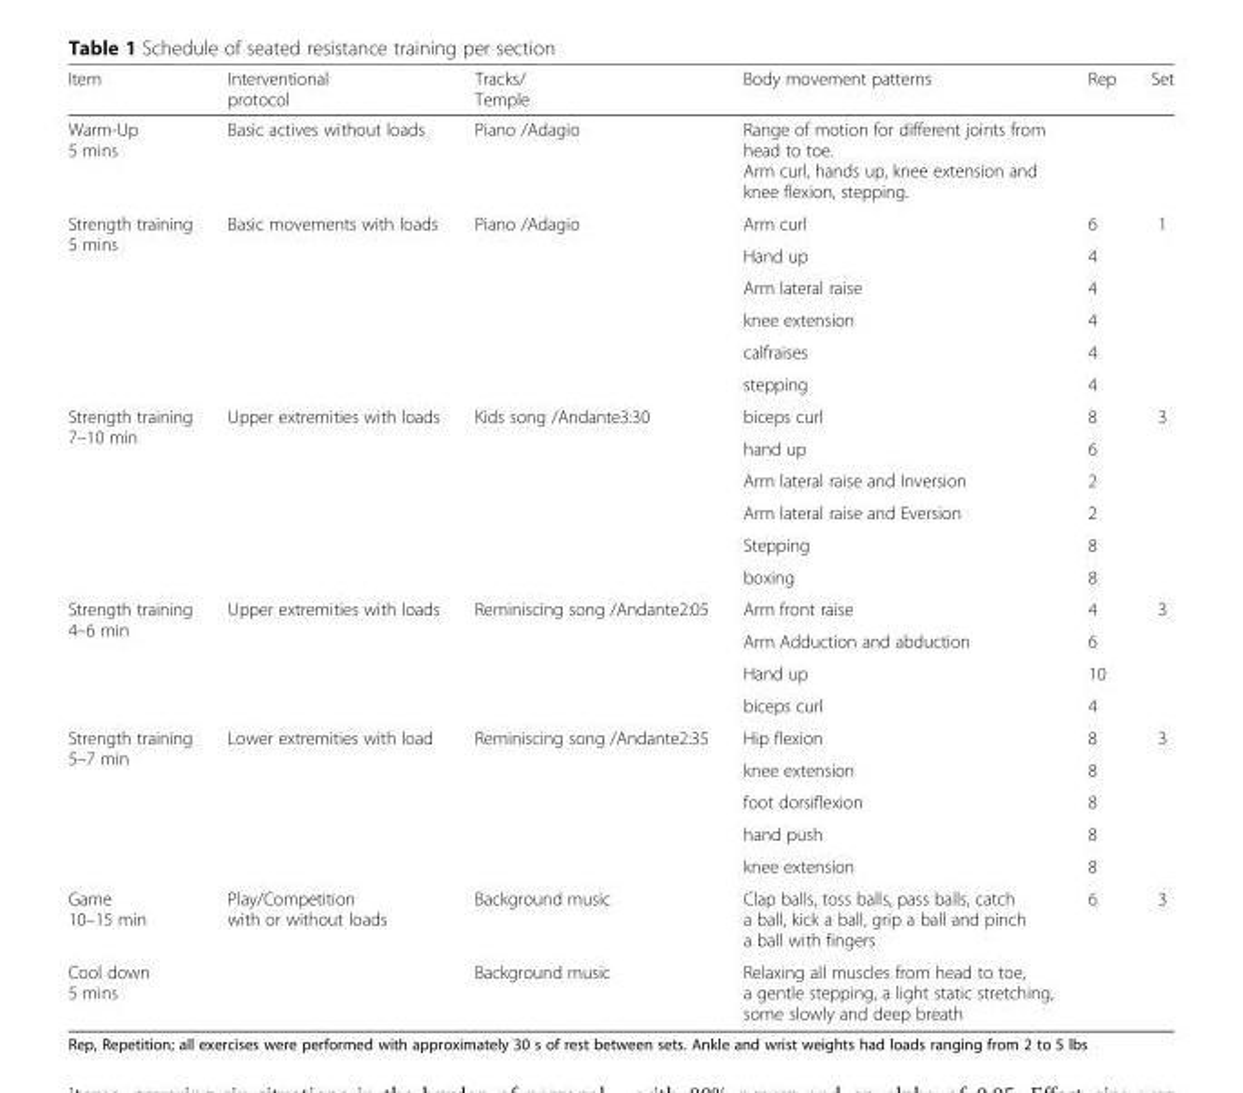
<table><thead><tr><td>Item</td><td>Interventional protocol</td><td>Tracks/ Temple</td><td>Body movement patterns</td><td>Rep</td><td>Set</td></tr></thead><tbody><tr><td>Warm-Up 5 mins</td><td>Basic actives without loads</td><td>Piano /Adagio</td><td>Range of motion for different joints from head to toe. Arm curl, hands up, knee extension and knee flexion, stepping.</td><td></td><td></td></tr><tr><td rowspan="6">Strength training 5 mins</td><td rowspan="6">Basic movements with loads</td><td rowspan="6">Piano /Adagio</td><td>Arm curl</td><td>6</td><td rowspan="6">1</td></tr><tr><td>Hand up</td><td>4</td></tr><tr><td>Arm lateral raise</td><td>4</td></tr><tr><td>knee extension</td><td>4</td></tr><tr><td>calfraises</td><td>4</td></tr><tr><td>stepping</td><td>4</td></tr><tr><td rowspan="6">Strength training 7–10 min</td><td rowspan="6">Upper extremities with loads</td><td rowspan="6">Kids song /Andante3:30</td><td>biceps curl</td><td>8</td><td rowspan="6">3</td></tr><tr><td>hand up</td><td>6</td></tr><tr><td>Arm lateral raise and Inversion</td><td>2</td></tr><tr><td>Arm lateral raise and Eversion</td><td>2</td></tr><tr><td>Stepping</td><td>8</td></tr><tr><td>boxing</td><td>8</td></tr><tr><td rowspan="4">Strength training 4–6 min</td><td rowspan="4">Upper extremities with loads</td><td rowspan="4">Reminiscing song /Andante2:05</td><td>Arm front raise</td><td>4</td><td rowspan="4">3</td></tr><tr><td>Arm Adduction and abduction</td><td>6</td></tr><tr><td>Hand up</td><td>10</td></tr><tr><td>biceps curl</td><td>4</td></tr><tr><td rowspan="5">Strength training 5–7 min</td><td rowspan="5">Lower extremities with load</td><td rowspan="5">Reminiscing song /Andante2:35</td><td>Hip flexion</td><td>8</td><td rowspan="5">3</td></tr><tr><td>knee extension</td><td>8</td></tr><tr><td>foot dorsiflexion</td><td>8</td></tr><tr><td>hand push</td><td>8</td></tr><tr><td>knee extension</td><td>8</td></tr><tr><td>Game 10–15 min</td><td>Play/Competition with or without loads</td><td>Background music</td><td>Clap balls, toss balls, pass balls, catch a ball, kick a ball, grip a ball and pinch a ball with fingers</td><td>6</td><td>3</td></tr><tr><td>Cool down 5 mins</td><td></td><td>Background music</td><td>Relaxing all muscles from head to toe, a gentle stepping, a light static stretching, some slowly and deep breath</td><td></td><td></td></tr></tbody></table>